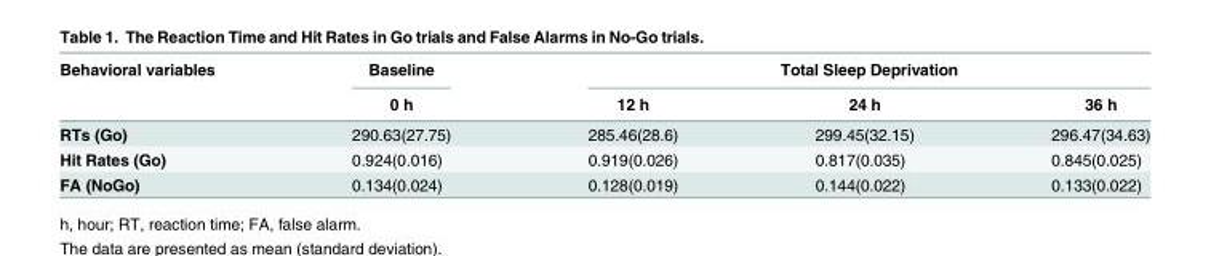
<table><thead><tr><td rowspan="2">Behavioral variables</td><td rowspan="2">Baseline 0 h</td><td colspan="3">Total Sleep Deprivation</td></tr><tr><td>12 h</td><td>24 h</td><td>36 h</td></tr></thead><tbody><tr><td>RTs (Go)</td><td>290.63(27.75)</td><td>285.46(28.6)</td><td>299.45(32.15)</td><td>296.47(34.63)</td></tr><tr><td>Hit Rates (Go)</td><td>0.924(0.016)</td><td>0.919(0.026)</td><td>0.817(0.035)</td><td>0.845(0.025)</td></tr><tr><td>FA (NoGo)</td><td>0.134(0.024)</td><td>0.128(0.019)</td><td>0.144(0.022)</td><td>0.133(0.022)</td></tr></tbody></table>